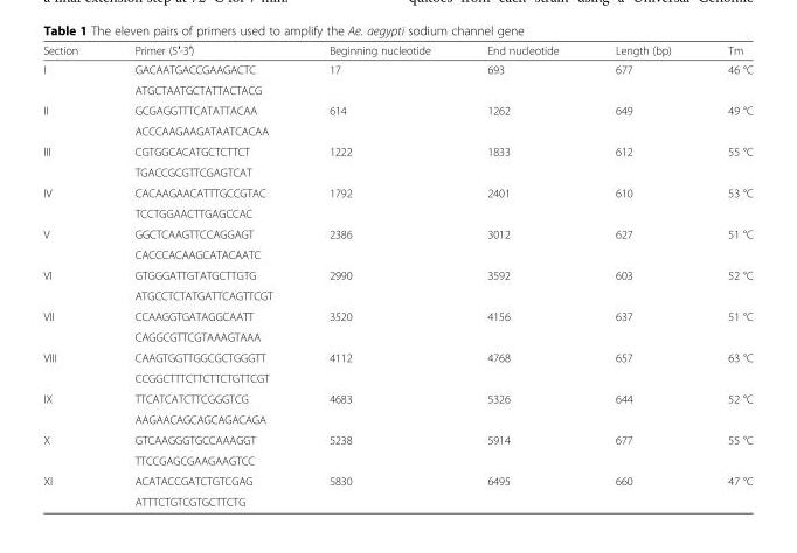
<table><thead><tr><td>Section</td><td>Primer (5′-3′)</td><td>Beginning nucleotide</td><td>End nucleotide</td><td>Length (bp)</td><td>Tm</td></tr></thead><tbody><tr><td rowspan="2">I</td><td>GACAATGACCGAAGACTC</td><td rowspan="2">17</td><td rowspan="2">693</td><td rowspan="2">677</td><td rowspan="2">46 °C</td></tr><tr><td>ATGCTAATGCTATTACTACG</td></tr><tr><td rowspan="2">II</td><td>GCGAGGTTTCATATTACAA</td><td rowspan="2">614</td><td rowspan="2">1262</td><td rowspan="2">649</td><td rowspan="2">49 °C</td></tr><tr><td>ACCCAAGAAGATAATCACAA</td></tr><tr><td rowspan="2">III</td><td>CGTGGCACATGCTCTTCT</td><td rowspan="2">1222</td><td rowspan="2">1833</td><td rowspan="2">612</td><td rowspan="2">55 °C</td></tr><tr><td>TGACCGCGTTCGAGTCAT</td></tr><tr><td rowspan="2">IV</td><td>CACAAGAACATTTGCCGTAC</td><td rowspan="2">1792</td><td rowspan="2">2401</td><td rowspan="2">610</td><td rowspan="2">53 °C</td></tr><tr><td>TCCTGGAACTTGAGCCAC</td></tr><tr><td rowspan="2">V</td><td>GGCTCAAGTTCCAGGAGT</td><td rowspan="2">2386</td><td rowspan="2">3012</td><td rowspan="2">627</td><td rowspan="2">51 °C</td></tr><tr><td>CACCCACAAGCATACAATC</td></tr><tr><td rowspan="2">VI</td><td>GTGGGATTGTATGCTTGTG</td><td rowspan="2">2990</td><td rowspan="2">3592</td><td rowspan="2">603</td><td rowspan="2">52 °C</td></tr><tr><td>ATGCCTCTATGATTCAGTTCGT</td></tr><tr><td rowspan="2">VII</td><td>CCAAGGTGATAGGCAATT</td><td rowspan="2">3520</td><td rowspan="2">4156</td><td rowspan="2">637</td><td rowspan="2">51 °C</td></tr><tr><td>CAGGCGTTCGTAAAGTAAA</td></tr><tr><td rowspan="2">VIII</td><td>CAAGTGGTTGGCGCTGGGTT</td><td rowspan="2">4112</td><td rowspan="2">4768</td><td rowspan="2">657</td><td rowspan="2">63 °C</td></tr><tr><td>CCGGCTTTCTTCTTCTGTTCGT</td></tr><tr><td rowspan="2">IX</td><td>TTCATCATCTTCGGGTCG</td><td rowspan="2">4683</td><td rowspan="2">5326</td><td rowspan="2">644</td><td rowspan="2">52 °C</td></tr><tr><td>AAGAACAGCAGCAGACAGA</td></tr><tr><td rowspan="2">X</td><td>GTCAAGGGTGCCAAAGGT</td><td rowspan="2">5238</td><td rowspan="2">5914</td><td rowspan="2">677</td><td rowspan="2">55 °C</td></tr><tr><td>TTCCGAGCGAAGAAGTCC</td></tr><tr><td rowspan="2">XI</td><td>ACATACCGATCTGTCGAG</td><td rowspan="2">5830</td><td rowspan="2">6495</td><td rowspan="2">660</td><td rowspan="2">47 °C</td></tr><tr><td>ATTTCTGTCGTGCTTCTG</td></tr></tbody></table>